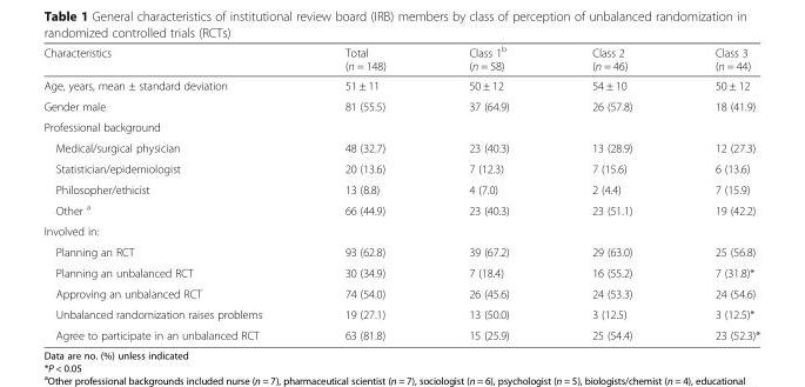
<table><thead><tr><td>Characteristics</td><td>Total (n = 148)</td><td>Class 1<sup>b</sup> (n = 58)</td><td>Class 2 (n = 46)</td><td>Class 3 (n = 44)</td></tr></thead><tbody><tr><td>Age, years, mean ± standard deviation</td><td>51 ± 11</td><td>50 ± 12</td><td>54 ± 10</td><td>50 ± 12</td></tr><tr><td>Gender male</td><td>81 (55.5)</td><td>37 (64.9)</td><td>26 (57.8)</td><td>18 (41.9)</td></tr><tr><td colspan="5">Professional background</td></tr><tr><td>Medical/surgical physician</td><td>48 (32.7)</td><td>23 (40.3)</td><td>13 (28.9)</td><td>12 (27.3)</td></tr><tr><td>Statistician/epidemiologist</td><td>20 (13.6)</td><td>7 (12.3)</td><td>7 (15.6)</td><td>6 (13.6)</td></tr><tr><td>Philosopher/ethicist</td><td>13 (8.8)</td><td>4 (7.0)</td><td>2 (4.4)</td><td>7 (15.9)</td></tr><tr><td>Other <sup>a</sup></td><td>66 (44.9)</td><td>23 (40.3)</td><td>23 (51.1)</td><td>19 (42.2)</td></tr><tr><td colspan="5">Involved in:</td></tr><tr><td>Planning an RCT</td><td>93 (62.8)</td><td>39 (67.2)</td><td>29 (63.0)</td><td>25 (56.8)</td></tr><tr><td>Planning an unbalanced RCT</td><td>30 (34.9)</td><td>7 (18.4)</td><td>16 (55.2)</td><td>7 (31.8)*</td></tr><tr><td>Approving an unbalanced RCT</td><td>74 (54.0)</td><td>26 (45.6)</td><td>24 (53.3)</td><td>24 (54.6)</td></tr><tr><td>Unbalanced randomization raises problems</td><td>19 (27.1)</td><td>13 (50.0)</td><td>3 (12.5)</td><td>3 (12.5)*</td></tr><tr><td>Agree to participate in an unbalanced RCT</td><td>63 (81.8)</td><td>15 (25.9)</td><td>25 (54.4)</td><td>23 (52.3)*</td></tr></tbody></table>